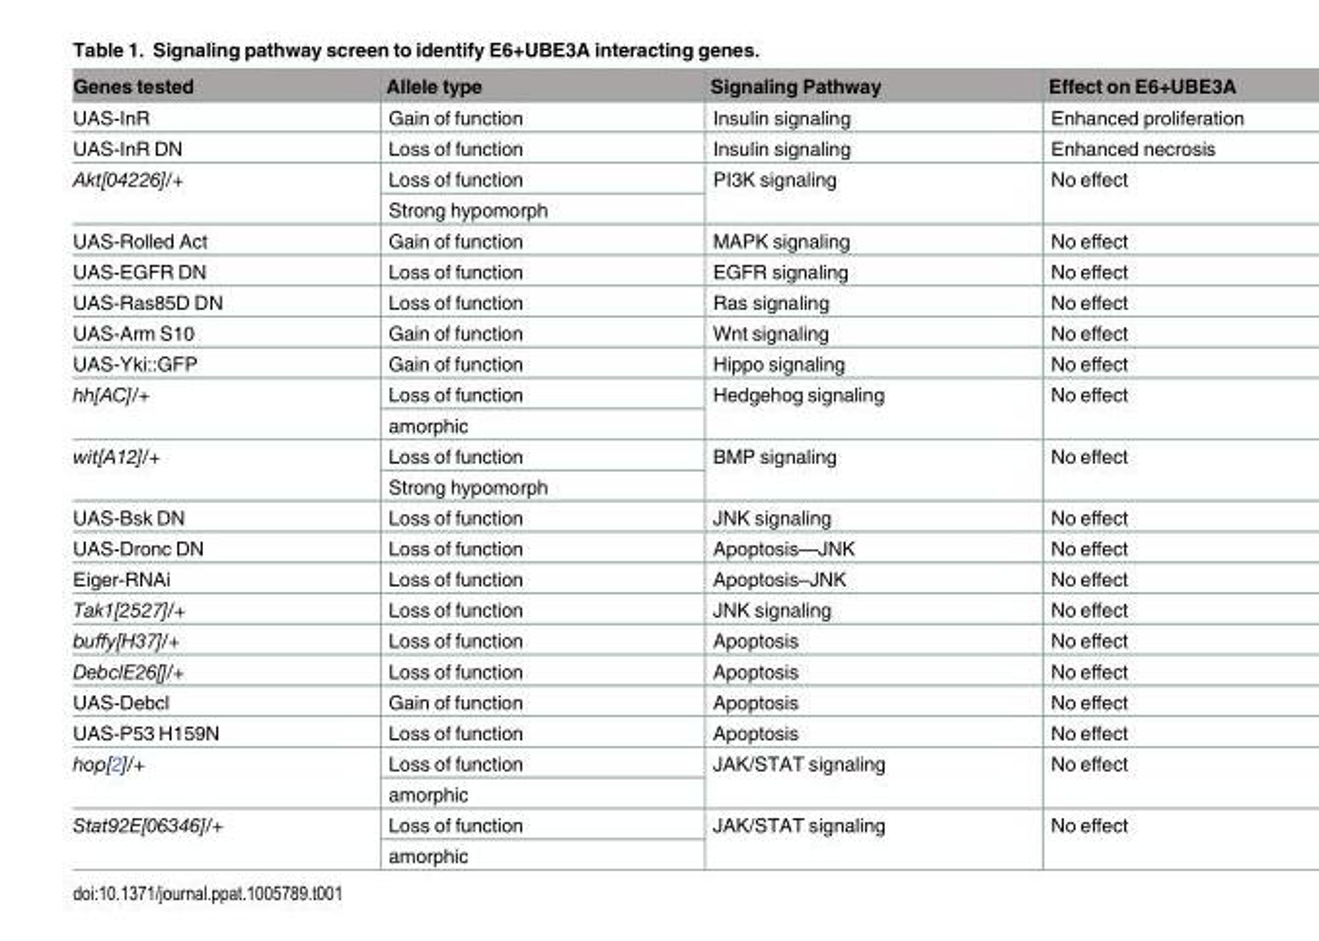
<table><thead><tr><td>Genes tested</td><td>Allele type</td><td>Signaling Pathway</td><td>Effect on E6+UBE3A</td></tr></thead><tbody><tr><td>UAS-InR</td><td>Gain of function</td><td>Insulin signaling</td><td>Enhanced proliferation</td></tr><tr><td>UAS-InR DN</td><td>Loss of function</td><td>Insulin signaling</td><td>Enhanced necrosis</td></tr><tr><td rowspan="2">Akt[04226]/+</td><td>Loss of function</td><td rowspan="2">PI3K signaling</td><td rowspan="2">No effect</td></tr><tr><td>Strong hypomorph</td></tr><tr><td>UAS-Rolled Act</td><td>Gain of function</td><td>MAPK signaling</td><td>No effect</td></tr><tr><td>UAS-EGFR DN</td><td>Loss of function</td><td>EGFR signaling</td><td>No effect</td></tr><tr><td>UAS-Ras85D DN</td><td>Loss of function</td><td>Ras signaling</td><td>No effect</td></tr><tr><td>UAS-Arm S10</td><td>Gain of function</td><td>Wnt signaling</td><td>No effect</td></tr><tr><td>UAS-Yki::GFP</td><td>Gain of function</td><td>Hippo signaling</td><td>No effect</td></tr><tr><td rowspan="2">hh[AC]/+</td><td>Loss of function</td><td rowspan="2">Hedgehog signaling</td><td rowspan="2">No effect</td></tr><tr><td>amorphic</td></tr><tr><td rowspan="2">wit[A12]/+</td><td>Loss of function</td><td rowspan="2">BMP signaling</td><td rowspan="2">No effect</td></tr><tr><td>Strong hypomorph</td></tr><tr><td>UAS-Bsk DN</td><td>Loss of function</td><td>JNK signaling</td><td>No effect</td></tr><tr><td>UAS-Dronc DN</td><td>Loss of function</td><td>Apoptosis—JNK</td><td>No effect</td></tr><tr><td>Eiger-RNAi</td><td>Loss of function</td><td>Apoptosis–JNK</td><td>No effect</td></tr><tr><td>Tak1[2527]/+</td><td>Loss of function</td><td>JNK signaling</td><td>No effect</td></tr><tr><td>buffy[H37]/+</td><td>Loss of function</td><td>Apoptosis</td><td>No effect</td></tr><tr><td>DebclE26[]/+</td><td>Loss of function</td><td>Apoptosis</td><td>No effect</td></tr><tr><td>UAS-Debcl</td><td>Gain of function</td><td>Apoptosis</td><td>No effect</td></tr><tr><td>UAS-P53 H159N</td><td>Loss of function</td><td>Apoptosis</td><td>No effect</td></tr><tr><td rowspan="2">hop[2]/+</td><td>Loss of function</td><td rowspan="2">JAK/STAT signaling</td><td rowspan="2">No effect</td></tr><tr><td>amorphic</td></tr><tr><td rowspan="2">Stat92E[06346]/+</td><td>Loss of function</td><td rowspan="2">JAK/STAT signaling</td><td rowspan="2">No effect</td></tr><tr><td>amorphic</td></tr></tbody></table>